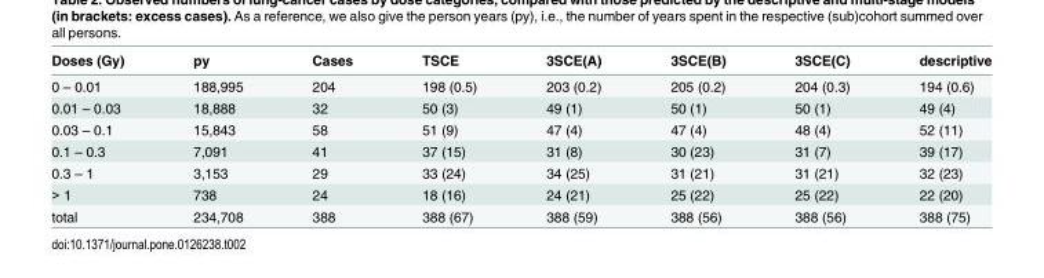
<table><thead><tr><td>Doses (Gy)</td><td>py</td><td>Cases</td><td>TSCE</td><td>3SCE(A)</td><td>3SCE(B)</td><td>3SCE(C)</td><td>descriptive</td></tr></thead><tbody><tr><td>0 – 0.01</td><td>188,995</td><td>204</td><td>198 (0.5)</td><td>203 (0.2)</td><td>205 (0.2)</td><td>204 (0.3)</td><td>194 (0.6)</td></tr><tr><td>0.01 – 0.03</td><td>18,888</td><td>32</td><td>50 (3)</td><td>49 (1)</td><td>50 (1)</td><td>50 (1)</td><td>49 (4)</td></tr><tr><td>0.03 – 0.1</td><td>15,843</td><td>58</td><td>51 (9)</td><td>47 (4)</td><td>47 (4)</td><td>48 (4)</td><td>52 (11)</td></tr><tr><td>0.1 – 0.3</td><td>7,091</td><td>41</td><td>37 (15)</td><td>31 (8)</td><td>30 (23)</td><td>31 (7)</td><td>39 (17)</td></tr><tr><td>0.3 – 1</td><td>3,153</td><td>29</td><td>33 (24)</td><td>34 (25)</td><td>31 (21)</td><td>31 (21)</td><td>32 (23)</td></tr><tr><td>&gt; 1</td><td>738</td><td>24</td><td>18 (16)</td><td>24 (21)</td><td>25 (22)</td><td>25 (22)</td><td>22 (20)</td></tr><tr><td>total</td><td>234,708</td><td>388</td><td>388 (67)</td><td>388 (59)</td><td>388 (56)</td><td>388 (56)</td><td>388 (75)</td></tr></tbody></table>